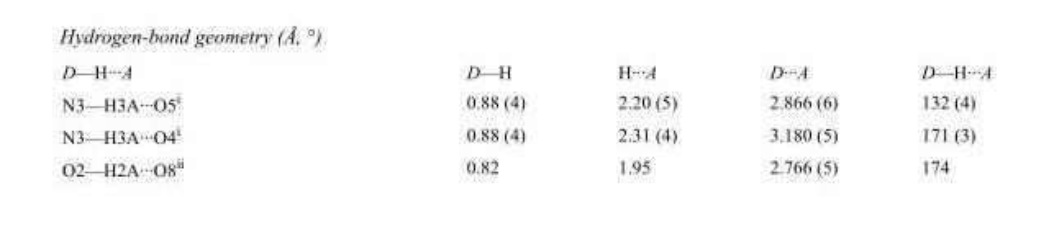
<table><tbody><tr><td>D—H···A</td><td>D—H</td><td>H···A</td><td>D···A</td><td>D—H···A</td></tr><tr><td>N3—H3A···O5<sup>i</sup></td><td>0.88 (4)</td><td>2.20 (5)</td><td>2.866 (6)</td><td>132 (4)</td></tr><tr><td>N3—H3A···O4<sup>i</sup></td><td>0.88 (4)</td><td>2.31 (4)</td><td>3.180 (5)</td><td>171 (3)</td></tr><tr><td>O2—H2A···O8<sup>ii</sup></td><td>0.82</td><td>1.95</td><td>2.766 (5)</td><td>174</td></tr></tbody></table>